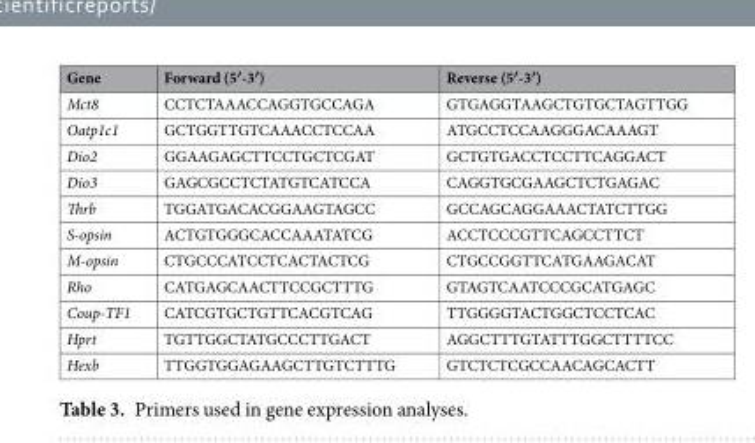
<table><thead><tr><td>Gene</td><td>Forward (5′-3′)</td><td>Reverse (5′-3′)</td></tr></thead><tbody><tr><td>Mct8</td><td>CCTCTAAACCAGGTGCCAGA</td><td>GTGAGGTAAGCTGTGCTAGTTGG</td></tr><tr><td>Oatp1c1</td><td>GCTGGTTGTCAAACCTCCAA</td><td>ATGCCTCCAAGGGACAAAGT</td></tr><tr><td>Dio2</td><td>GGAAGAGCTTCCTGCTCGAT</td><td>GCTGTGACCTCCTTCAGGACT</td></tr><tr><td>Dio3</td><td>GAGCGCCTCTATGTCATCCA</td><td>CAGGTGCGAAGCTCTGAGAC</td></tr><tr><td>Thrb</td><td>TGGATGACACGGAAGTAGCC</td><td>GCCAGCAGGAAACTATCTTGG</td></tr><tr><td>S-opsin</td><td>ACTGTGGGCACCAAATATCG</td><td>ACCTCCCGTTCAGCCTTCT</td></tr><tr><td>M-opsin</td><td>CTGCCCATCCTCACTACTCG</td><td>CTGCCGGTTCATGAAGACAT</td></tr><tr><td>Rho</td><td>CATGAGCAACTTCCGCTTTG</td><td>GTAGTCAATCCCGCATGAGC</td></tr><tr><td>Coup-TF1</td><td>CATCGTGCTGTTCACGTCAG</td><td>TTGGGGTACTGGCTCCTCAC</td></tr><tr><td>Hprt</td><td>TGTTGGCTATGCCCTTGACT</td><td>AGGCTTTGTATTTGGCTTTTCC</td></tr><tr><td>Hexb</td><td>TTGGTGGAGAAGCTTGTCTTTG</td><td>GTCTCTCGCCAACAGCACTT</td></tr></tbody></table>